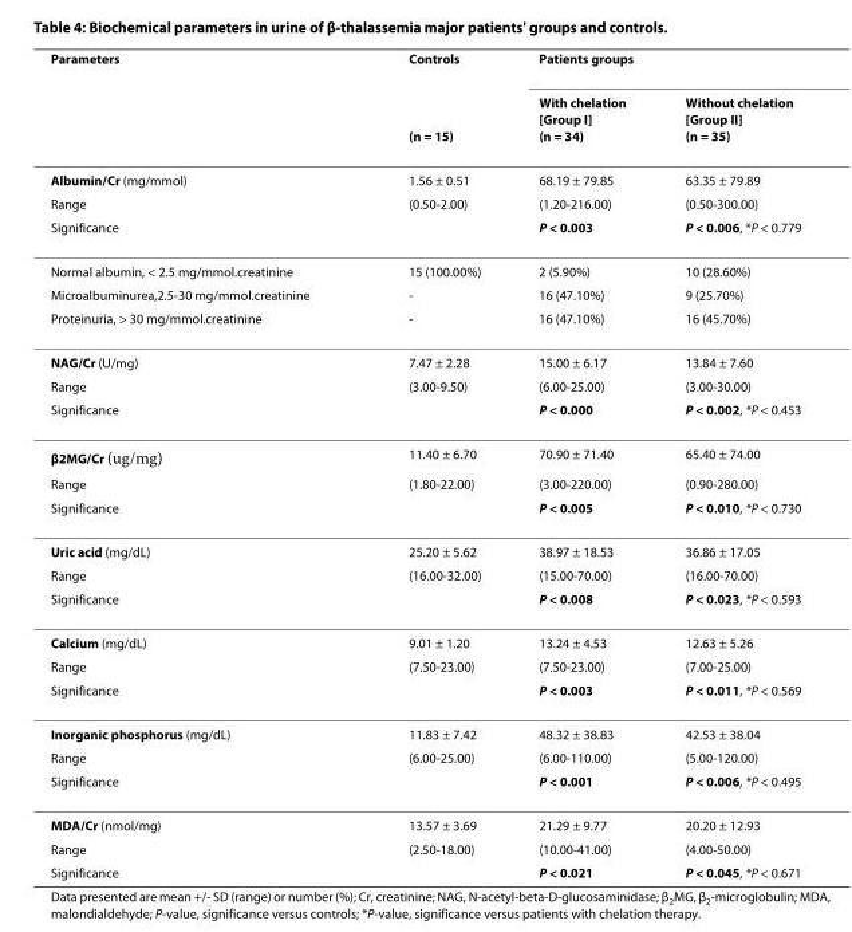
<table><thead><tr><td rowspan="2">Parameters</td><td rowspan="2">Controls (n = 15)</td><td colspan="2">Patients groups</td></tr><tr><td>With chelation [Group I] (n = 34)</td><td>Without chelation [Group II] (n = 35)</td></tr></thead><tbody><tr><td>Albumin/Cr (mg/mmol)</td><td>1.56 ± 0.51</td><td>68.19 ± 79.85</td><td>63.35 ± 79.89</td></tr><tr><td>Range</td><td>(0.50-2.00)</td><td>(1.20-216.00)</td><td>(0.50-300.00)</td></tr><tr><td>Significance</td><td></td><td>P &lt; 0.003</td><td>P &lt; 0.006, *P &lt; 0.779</td></tr><tr><td>Normal albumin, &lt; 2.5 mg/mmol.creatinine</td><td>15 (100.00%)</td><td>2 (5.90%)</td><td>10 (28.60%)</td></tr><tr><td>Microalbuminurea,2.5-30 mg/mmol.creatinine</td><td>-</td><td>16 (47.10%)</td><td>9 (25.70%)</td></tr><tr><td>Proteinuria, &gt; 30 mg/mmol.creatinine</td><td>-</td><td>16 (47.10%)</td><td>16 (45.70%)</td></tr><tr><td>NAG/Cr (U/mg)</td><td>7.47 ± 2.28</td><td>15.00 ± 6.17</td><td>13.84 ± 7.60</td></tr><tr><td>Range</td><td>(3.00-9.50)</td><td>(6.00-25.00)</td><td>(3.00-30.00)</td></tr><tr><td>Significance</td><td></td><td>P &lt; 0.000</td><td>P &lt; 0.002, *P &lt; 0.453</td></tr><tr><td>β<sub>2</sub>MG/Cr (ug/mg)</td><td>11.40 ± 6.70</td><td>70.90 ± 71.40</td><td>65.40 ± 74.00</td></tr><tr><td>Range</td><td>(1.80-22.00)</td><td>(3.00-220.00)</td><td>(0.90-280.00)</td></tr><tr><td>Significance</td><td></td><td>P &lt; 0.005</td><td>P &lt; 0.010, *P &lt; 0.730</td></tr><tr><td>Uric acid (mg/dL)</td><td>25.20 ± 5.62</td><td>38.97 ± 18.53</td><td>36.86 ± 17.05</td></tr><tr><td>Range</td><td>(16.00-32.00)</td><td>(15.00-70.00)</td><td>(16.00-70.00)</td></tr><tr><td>Significance</td><td></td><td>P &lt; 0.008</td><td>P &lt; 0.023, *P &lt; 0.593</td></tr><tr><td>Calcium (mg/dL)</td><td>9.01 ± 1.20</td><td>13.24 ± 4.53</td><td>12.63 ± 5.26</td></tr><tr><td>Range</td><td>(7.50-23.00)</td><td>(7.50-23.00)</td><td>(7.00-25.00)</td></tr><tr><td>Significance</td><td></td><td>P &lt; 0.003</td><td>P &lt; 0.011, *P &lt; 0.569</td></tr><tr><td>Inorganic phosphorus (mg/dL)</td><td>11.83 ± 7.42</td><td>48.32 ± 38.83</td><td>42.53 ± 38.04</td></tr><tr><td>Range</td><td>(6.00-25.00)</td><td>(6.00-110.00)</td><td>(5.00-120.00)</td></tr><tr><td>Significance</td><td></td><td>P &lt; 0.001</td><td>P &lt; 0.006, *P &lt; 0.495</td></tr><tr><td>MDA/Cr (nmol/mg)</td><td>13.57 ± 3.69</td><td>21.29 ± 9.77</td><td>20.20 ± 12.93</td></tr><tr><td>Range</td><td>(2.50-18.00)</td><td>(10.00-41.00)</td><td>(4.00-50.00)</td></tr><tr><td>Significance</td><td></td><td>P &lt; 0.021</td><td>P &lt; 0.045, *P &lt; 0.671</td></tr></tbody></table>